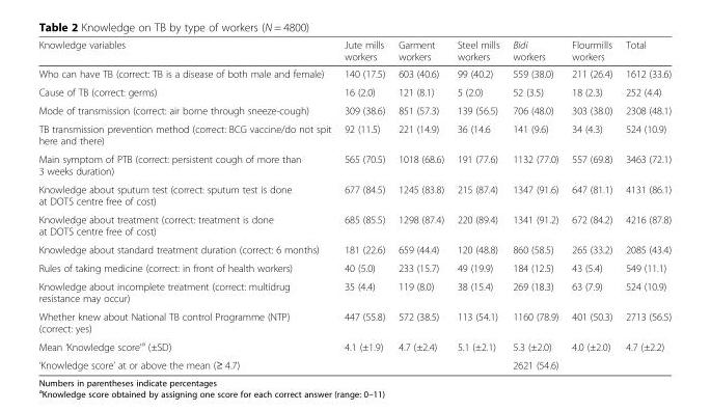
<table><thead><tr><td>Knowledge variables</td><td>Jute mills workers</td><td>Garment workers</td><td>Steel mills workers</td><td>Bidi workers</td><td>Flourmills workers</td><td>Total</td></tr></thead><tbody><tr><td>Who can have TB (correct: TB is a disease of both male and female)</td><td>140 (17.5)</td><td>603 (40.6)</td><td>99 (40.2)</td><td>559 (38.0)</td><td>211 (26.4)</td><td>1612 (33.6)</td></tr><tr><td>Cause of TB (correct: germs)</td><td>16 (2.0)</td><td>121 (8.1)</td><td>5 (2.0)</td><td>52 (3.5)</td><td>18 (2.3)</td><td>252 (4.4)</td></tr><tr><td>Mode of transmission (correct: air borne through sneeze-cough)</td><td>309 (38.6)</td><td>851 (57.3)</td><td>139 (56.5)</td><td>706 (48.0)</td><td>303 (38.0)</td><td>2308 (48.1)</td></tr><tr><td>TB transmission prevention method (correct: BCG vaccine/do not spit here and there)</td><td>92 (11.5)</td><td>221 (14.9)</td><td>36 (14.6</td><td>141 (9.6)</td><td>34 (4.3)</td><td>524 (10.9)</td></tr><tr><td>Main symptom of PTB (correct: persistent cough of more than 3 weeks duration)</td><td>565 (70.5)</td><td>1018 (68.6)</td><td>191 (77.6)</td><td>1132 (77.0)</td><td>557 (69.8)</td><td>3463 (72.1)</td></tr><tr><td>Knowledge about sputum test (correct: sputum test is done at DOTS centre free of cost)</td><td>677 (84.5)</td><td>1245 (83.8)</td><td>215 (87.4)</td><td>1347 (91.6)</td><td>647 (81.1)</td><td>4131 (86.1)</td></tr><tr><td>Knowledge about treatment (correct: treatment is done at DOTS centre free of cost)</td><td>685 (85.5)</td><td>1298 (87.4)</td><td>220 (89.4)</td><td>1341 (91.2)</td><td>672 (84.2)</td><td>4216 (87.8)</td></tr><tr><td>Knowledge about standard treatment duration (correct: 6 months)</td><td>181 (22.6)</td><td>659 (44.4)</td><td>120 (48.8)</td><td>860 (58.5)</td><td>265 (33.2)</td><td>2085 (43.4)</td></tr><tr><td>Rules of taking medicine (correct: in front of health workers)</td><td>40 (5.0)</td><td>233 (15.7)</td><td>49 (19.9)</td><td>184 (12.5)</td><td>43 (5.4)</td><td>549 (11.1)</td></tr><tr><td>Knowledge about incomplete treatment (correct: multidrug resistance may occur)</td><td>35 (4.4)</td><td>119 (8.0)</td><td>38 (15.4)</td><td>269 (18.3)</td><td>63 (7.9)</td><td>524 (10.9)</td></tr><tr><td>Whether knew about National TB control Programme (NTP) (correct: yes)</td><td>447 (55.8)</td><td>572 (38.5)</td><td>113 (54.1)</td><td>1160 (78.9)</td><td>401 (50.3)</td><td>2713 (56.5)</td></tr><tr><td>Mean ‘Knowledge score’<sup>a</sup> (±SD)</td><td>4.1 (±1.9)</td><td>4.7 (±2.4)</td><td>5.1 (±2.1)</td><td>5.3 (±2.0)</td><td>4.0 (±2.0)</td><td>4.7 (±2.2)</td></tr><tr><td colspan="4">‘Knowledge score’ at or above the mean (≥ 4.7)</td><td colspan="3">2621 (54.6)</td></tr></tbody></table>